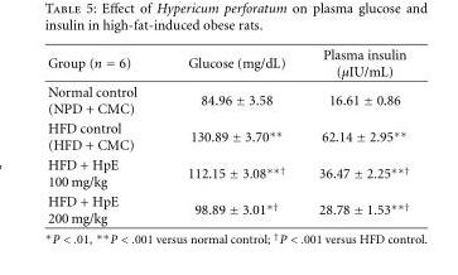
<table><thead><tr><td>Group (n = 6)</td><td>Glucose (mg/dL)</td><td>Plasma insulin (μIU/mL)</td></tr></thead><tbody><tr><td>Normal control (NPD + CMC)</td><td>84.96 ± 3.58</td><td>16.61 ± 0.86</td></tr><tr><td>HFD control (HFD + CMC)</td><td>130.89 ± 3.70∗∗</td><td>62.14 ± 2.95∗∗</td></tr><tr><td>HFD + HpE 100 mg/kg</td><td>112.15 ± 3.08<sup>∗∗†</sup></td><td>36.47 ± 2.25<sup>∗∗†</sup></td></tr><tr><td>HFD + HpE 200 mg/kg</td><td>98.89 ± 3.01<sup>∗†</sup></td><td>28.78 ± 1.53<sup>∗∗†</sup></td></tr></tbody></table>